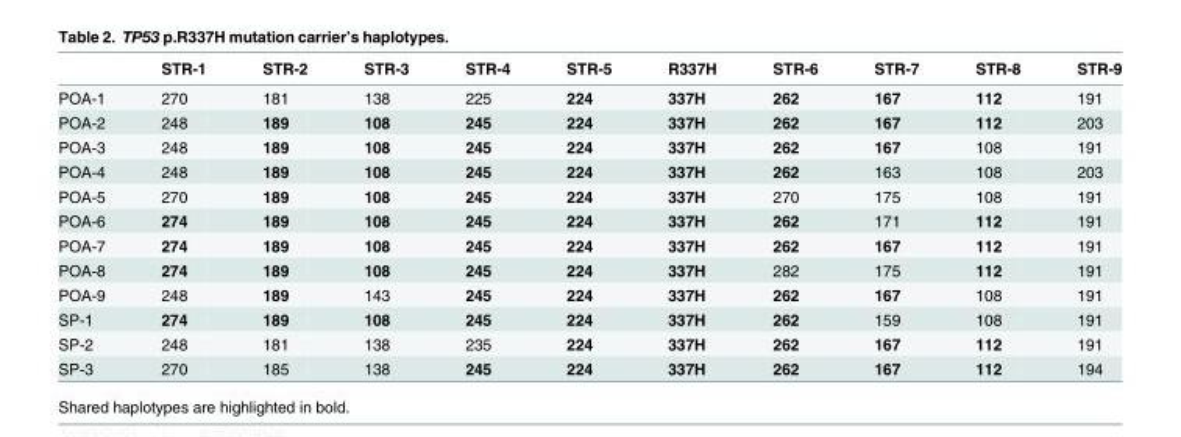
<table><thead><tr><td></td><td>STR-1</td><td>STR-2</td><td>STR-3</td><td>STR-4</td><td>STR-5</td><td>R337H</td><td>STR-6</td><td>STR-7</td><td>STR-8</td><td>STR-9</td></tr></thead><tbody><tr><td>POA-1</td><td>270</td><td>181</td><td>138</td><td>225</td><td>224</td><td>337H</td><td>262</td><td>167</td><td>112</td><td>191</td></tr><tr><td>POA-2</td><td>248</td><td>189</td><td>108</td><td>245</td><td>224</td><td>337H</td><td>262</td><td>167</td><td>112</td><td>203</td></tr><tr><td>POA-3</td><td>248</td><td>189</td><td>108</td><td>245</td><td>224</td><td>337H</td><td>262</td><td>167</td><td>108</td><td>191</td></tr><tr><td>POA-4</td><td>248</td><td>189</td><td>108</td><td>245</td><td>224</td><td>337H</td><td>262</td><td>163</td><td>108</td><td>203</td></tr><tr><td>POA-5</td><td>270</td><td>189</td><td>108</td><td>245</td><td>224</td><td>337H</td><td>270</td><td>175</td><td>108</td><td>191</td></tr><tr><td>POA-6</td><td>274</td><td>189</td><td>108</td><td>245</td><td>224</td><td>337H</td><td>262</td><td>171</td><td>112</td><td>191</td></tr><tr><td>POA-7</td><td>274</td><td>189</td><td>108</td><td>245</td><td>224</td><td>337H</td><td>262</td><td>167</td><td>112</td><td>191</td></tr><tr><td>POA-8</td><td>274</td><td>189</td><td>108</td><td>245</td><td>224</td><td>337H</td><td>282</td><td>175</td><td>112</td><td>191</td></tr><tr><td>POA-9</td><td>248</td><td>189</td><td>143</td><td>245</td><td>224</td><td>337H</td><td>262</td><td>167</td><td>108</td><td>191</td></tr><tr><td>SP-1</td><td>274</td><td>189</td><td>108</td><td>245</td><td>224</td><td>337H</td><td>262</td><td>159</td><td>108</td><td>191</td></tr><tr><td>SP-2</td><td>248</td><td>181</td><td>138</td><td>235</td><td>224</td><td>337H</td><td>262</td><td>167</td><td>112</td><td>191</td></tr><tr><td>SP-3</td><td>270</td><td>185</td><td>138</td><td>245</td><td>224</td><td>337H</td><td>262</td><td>167</td><td>112</td><td>194</td></tr></tbody></table>